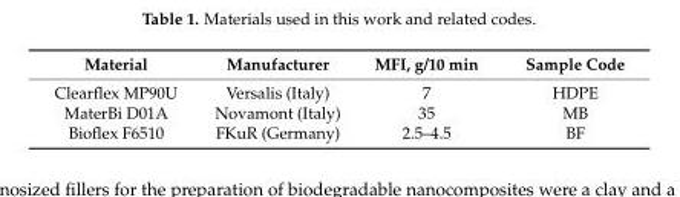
<table><thead><tr><td>Material</td><td>Manufacturer</td><td>MFI, g/10 min</td><td>Sample Code</td></tr></thead><tbody><tr><td>Clearflex MP90U</td><td>Versalis (Italy)</td><td>7</td><td>HDPE</td></tr><tr><td>MaterBi D01A</td><td>Novamont (Italy)</td><td>35</td><td>MB</td></tr><tr><td>Bioflex F6510</td><td>FKuR (Germany)</td><td>2.5–4.5</td><td>BF</td></tr></tbody></table>